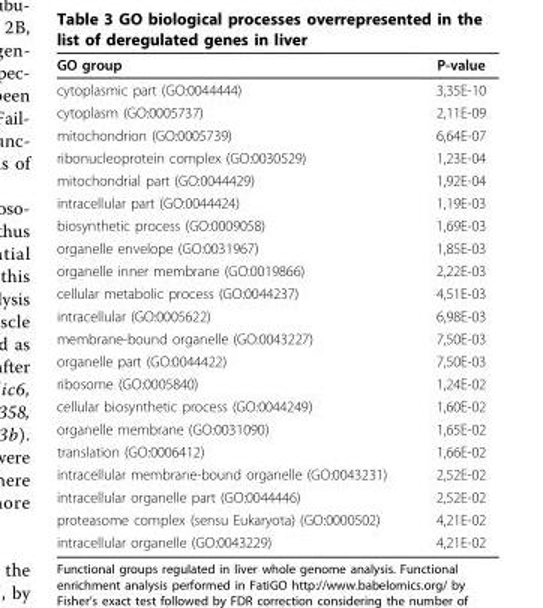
<table><thead><tr><td>GO group</td><td>P-value</td></tr></thead><tbody><tr><td>cytoplasmic part (GO:0044444)</td><td>3,35E-10</td></tr><tr><td>cytoplasm (GO:0005737)</td><td>2,11E-09</td></tr><tr><td>mitochondrion (GO:0005739)</td><td>6,64E-07</td></tr><tr><td>ribonucleoprotein complex (GO:0030529)</td><td>1,23E-04</td></tr><tr><td>mitochondrial part (GO:0044429)</td><td>1,92E-04</td></tr><tr><td>intracellular part (GO:0044424)</td><td>1,19E-03</td></tr><tr><td>biosynthetic process (GO:0009058)</td><td>1,69E-03</td></tr><tr><td>organelle envelope (GO:0031967)</td><td>1,85E-03</td></tr><tr><td>organelle inner membrane (GO:0019866)</td><td>2,22E-03</td></tr><tr><td>cellular metabolic process (GO:0044237)</td><td>4,51E-03</td></tr><tr><td>intracellular (GO:0005622)</td><td>6,98E-03</td></tr><tr><td>membrane-bound organelle (GO:0043227)</td><td>7,50E-03</td></tr><tr><td>organelle part (GO:0044422)</td><td>7,50E-03</td></tr><tr><td>ribosome (GO:0005840)</td><td>1,24E-02</td></tr><tr><td>cellular biosynthetic process (GO:0044249)</td><td>1,60E-02</td></tr><tr><td>organelle membrane (GO:0031090)</td><td>1,65E-02</td></tr><tr><td>translation (GO:0006412)</td><td>1,66E-02</td></tr><tr><td>intracellular membrane-bound organelle (GO:0043231)</td><td>2,52E-02</td></tr><tr><td>intracellular organelle part (GO:0044446)</td><td>2,52E-02</td></tr><tr><td>proteasome complex (sensu Eukaryota) (GO:0000502)</td><td>4,21E-02</td></tr><tr><td>intracellular organelle (GO:0043229)</td><td>4,21E-02</td></tr></tbody></table>